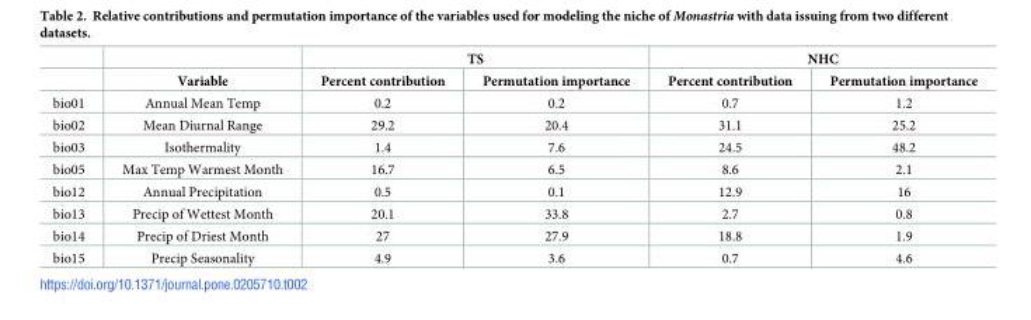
<table><thead><tr><td rowspan="2"></td><td rowspan="2">Variable</td><td colspan="2">TS</td><td colspan="2">NHC</td></tr><tr><td>Percent contribution</td><td>Permutation importance</td><td>Percent contribution</td><td>Permutation importance</td></tr></thead><tbody><tr><td>bio01</td><td>Annual Mean Temp</td><td>0.2</td><td>0.2</td><td>0.7</td><td>1.2</td></tr><tr><td>bio02</td><td>Mean Diurnal Range</td><td>29.2</td><td>20.4</td><td>31.1</td><td>25.2</td></tr><tr><td>bio03</td><td>Isothermality</td><td>1.4</td><td>7.6</td><td>24.5</td><td>48.2</td></tr><tr><td>bio05</td><td>Max Temp Warmest Month</td><td>16.7</td><td>6.5</td><td>8.6</td><td>2.1</td></tr><tr><td>bio12</td><td>Annual Precipitation</td><td>0.5</td><td>0.1</td><td>12.9</td><td>16</td></tr><tr><td>bio13</td><td>Precip of Wettest Month</td><td>20.1</td><td>33.8</td><td>2.7</td><td>0.8</td></tr><tr><td>bio14</td><td>Precip of Driest Month</td><td>27</td><td>27.9</td><td>18.8</td><td>1.9</td></tr><tr><td>bio15</td><td>Precip Seasonality</td><td>4.9</td><td>3.6</td><td>0.7</td><td>4.6</td></tr></tbody></table>